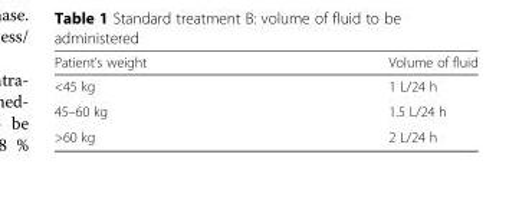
<table><thead><tr><td>Patient’s weight</td><td>Volume of fluid</td></tr></thead><tbody><tr><td>&lt;45 kg</td><td>1 L/24 h</td></tr><tr><td>45–60 kg</td><td>1.5 L/24 h</td></tr><tr><td>&gt;60 kg</td><td>2 L/24 h</td></tr></tbody></table>